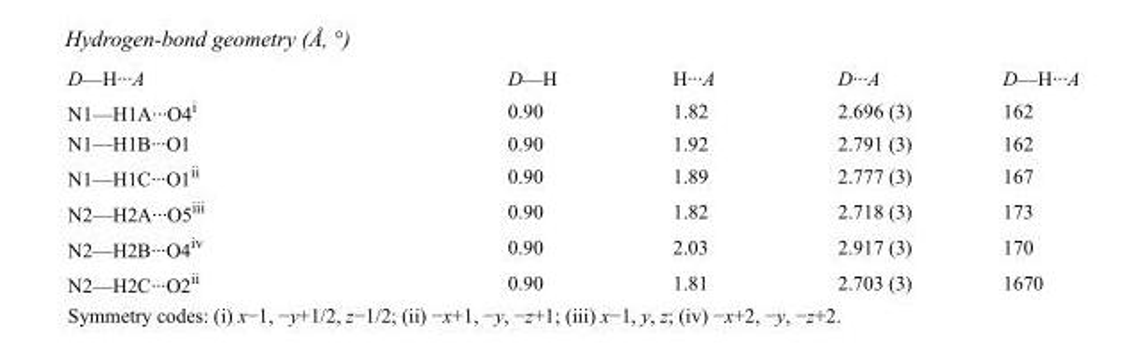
<table><tbody><tr><td>D—H···A</td><td>D—H</td><td>H···A</td><td>D···A</td><td>D—H···A</td></tr><tr><td>N1—H1A···O4<sup>i</sup></td><td>0.90</td><td>1.82</td><td>2.696 (3)</td><td>162</td></tr><tr><td>N1—H1B···O1</td><td>0.90</td><td>1.92</td><td>2.791 (3)</td><td>162</td></tr><tr><td>N1—H1C···O1<sup>ii</sup></td><td>0.90</td><td>1.89</td><td>2.777 (3)</td><td>167</td></tr><tr><td>N2—H2A···O5<sup>iii</sup></td><td>0.90</td><td>1.82</td><td>2.718 (3)</td><td>173</td></tr><tr><td>N2—H2B···O4<sup>iv</sup></td><td>0.90</td><td>2.03</td><td>2.917 (3)</td><td>170</td></tr><tr><td>N2—H2C···O2<sup>ii</sup></td><td>0.90</td><td>1.81</td><td>2.703 (3)</td><td>1670</td></tr></tbody></table>